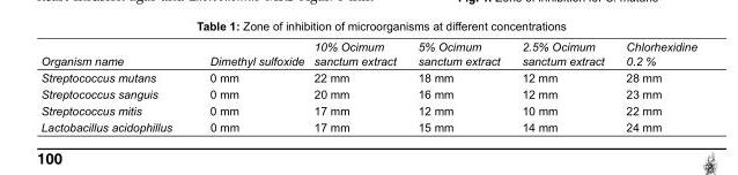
<table><tbody><tr><td>Organism name</td><td>Dimethyl sulfoxide</td><td>10% Ocimum sanctum extract</td><td>5% Ocimum sanctum extract</td><td>2.5% Ocimum sanctum extract</td><td>Chlorhexidine 0.2 %</td></tr><tr><td>Streptococcus mutans</td><td>0 mm</td><td>22 mm</td><td>18 mm</td><td>12 mm</td><td>28 mm</td></tr><tr><td>Streptococcus sanguis</td><td>0 mm</td><td>20 mm</td><td>16 mm</td><td>12 mm</td><td>23 mm</td></tr><tr><td>Streptococcus mitis</td><td>0 mm</td><td>17 mm</td><td>12 mm</td><td>10 mm</td><td>22 mm</td></tr><tr><td>Lactobacillus acidophillus</td><td>0 mm</td><td>17 mm</td><td>15 mm</td><td>14 mm</td><td>24 mm</td></tr></tbody></table>